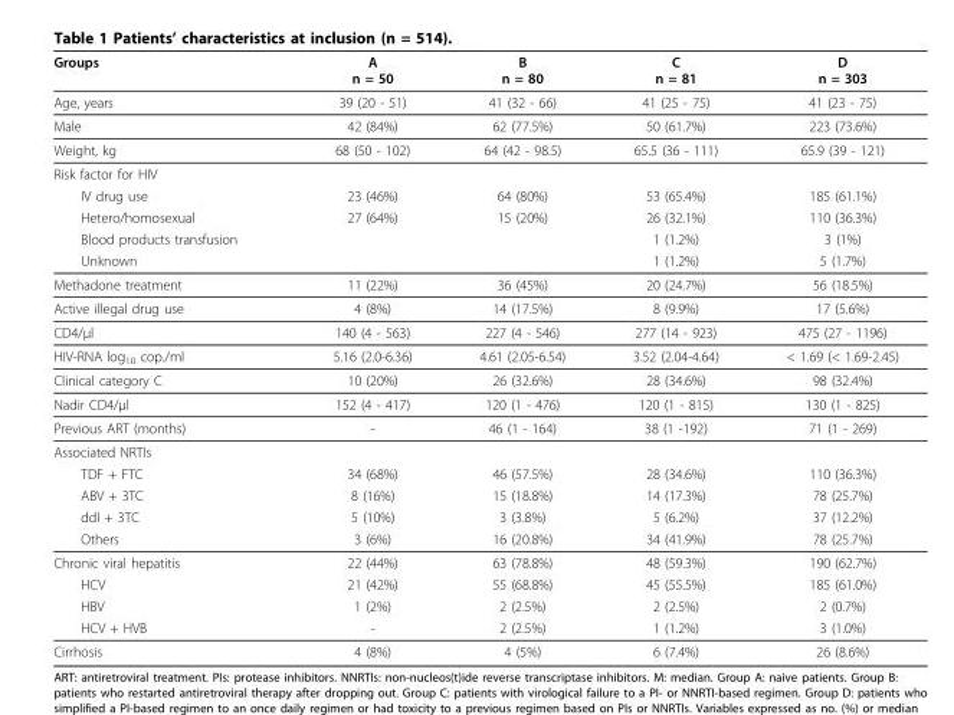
<table><thead><tr><td>Groups</td><td>A n = 50</td><td>B n = 80</td><td>C n = 81</td><td>D n = 303</td></tr></thead><tbody><tr><td>Age, years</td><td>39 (20 - 51)</td><td>41 (32 - 66)</td><td>41 (25 - 75)</td><td>41 (23 - 75)</td></tr><tr><td>Male</td><td>42 (84%)</td><td>62 (77.5%)</td><td>50 (61.7%)</td><td>223 (73.6%)</td></tr><tr><td>Weight, kg</td><td>68 (50 - 102)</td><td>64 (42 - 98.5)</td><td>65.5 (36 - 111)</td><td>65.9 (39 - 121)</td></tr><tr><td colspan="5">Risk factor for HIV</td></tr><tr><td>IV drug use</td><td>23 (46%)</td><td>64 (80%)</td><td>53 (65.4%)</td><td>185 (61.1%)</td></tr><tr><td>Hetero/homosexual</td><td>27 (64%)</td><td>15 (20%)</td><td>26 (32.1%)</td><td>110 (36.3%)</td></tr><tr><td>Blood products transfusion</td><td></td><td></td><td>1 (1.2%)</td><td>3 (1%)</td></tr><tr><td>Unknown</td><td></td><td></td><td>1 (1.2%)</td><td>5 (1.7%)</td></tr><tr><td>Methadone treatment</td><td>11 (22%)</td><td>36 (45%)</td><td>20 (24.7%)</td><td>56 (18.5%)</td></tr><tr><td>Active illegal drug use</td><td>4 (8%)</td><td>14 (17.5%)</td><td>8 (9.9%)</td><td>17 (5.6%)</td></tr><tr><td>CD4/μl</td><td>140 (4 - 563)</td><td>227 (4 - 546)</td><td>277 (14 - 923)</td><td>475 (27 - 1196)</td></tr><tr><td>HIV-RNA log<sub>10</sub> cop./ml</td><td>5.16 (2.0-6.36)</td><td>4.61 (2.05-6.54)</td><td>3.52 (2.04-4.64)</td><td>&lt; 1.69 (&lt; 1.69-2.45)</td></tr><tr><td>Clinical category C</td><td>10 (20%)</td><td>26 (32.6%)</td><td>28 (34.6%)</td><td>98 (32.4%)</td></tr><tr><td>Nadir CD4/μl</td><td>152 (4 - 417)</td><td>120 (1 - 476)</td><td>120 (1 - 815)</td><td>130 (1 - 825)</td></tr><tr><td>Previous ART (months)</td><td>-</td><td>46 (1 - 164)</td><td>38 (1 -192)</td><td>71 (1 - 269)</td></tr><tr><td colspan="5">Associated NRTIs</td></tr><tr><td>TDF + FTC</td><td>34 (68%)</td><td>46 (57.5%)</td><td>28 (34.6%)</td><td>110 (36.3%)</td></tr><tr><td>ABV + 3TC</td><td>8 (16%)</td><td>15 (18.8%)</td><td>14 (17.3%)</td><td>78 (25.7%)</td></tr><tr><td>ddI + 3TC</td><td>5 (10%)</td><td>3 (3.8%)</td><td>5 (6.2%)</td><td>37 (12.2%)</td></tr><tr><td>Others</td><td>3 (6%)</td><td>16 (20.8%)</td><td>34 (41.9%)</td><td>78 (25.7%)</td></tr><tr><td>Chronic viral hepatitis</td><td>22 (44%)</td><td>63 (78.8%)</td><td>48 (59.3%)</td><td>190 (62.7%)</td></tr><tr><td>HCV</td><td>21 (42%)</td><td>55 (68.8%)</td><td>45 (55.5%)</td><td>185 (61.0%)</td></tr><tr><td>HBV</td><td>1 (2%)</td><td>2 (2.5%)</td><td>2 (2.5%)</td><td>2 (0.7%)</td></tr><tr><td>HCV + HVB</td><td>-</td><td>2 (2.5%)</td><td>1 (1.2%)</td><td>3 (1.0%)</td></tr><tr><td>Cirrhosis</td><td>4 (8%)</td><td>4 (5%)</td><td>6 (7.4%)</td><td>26 (8.6%)</td></tr></tbody></table>